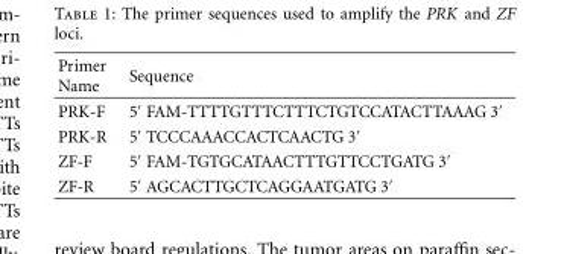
<table><thead><tr><td>Primer Name</td><td>Sequence</td></tr></thead><tbody><tr><td>PRK-F</td><td>5′ FAM-TTTTGTTTCTTTCTGTCCATACTTAAAG 3′</td></tr><tr><td>PRK-R</td><td>5′ TCCCAAACCACTCAACTG 3′</td></tr><tr><td>ZF-F</td><td>5′ FAM-TGTGCATAACTTTGTTCCTGATG 3′</td></tr><tr><td>ZF-R</td><td>5′ AGCACTTGCTCAGGAATGATG 3′</td></tr></tbody></table>